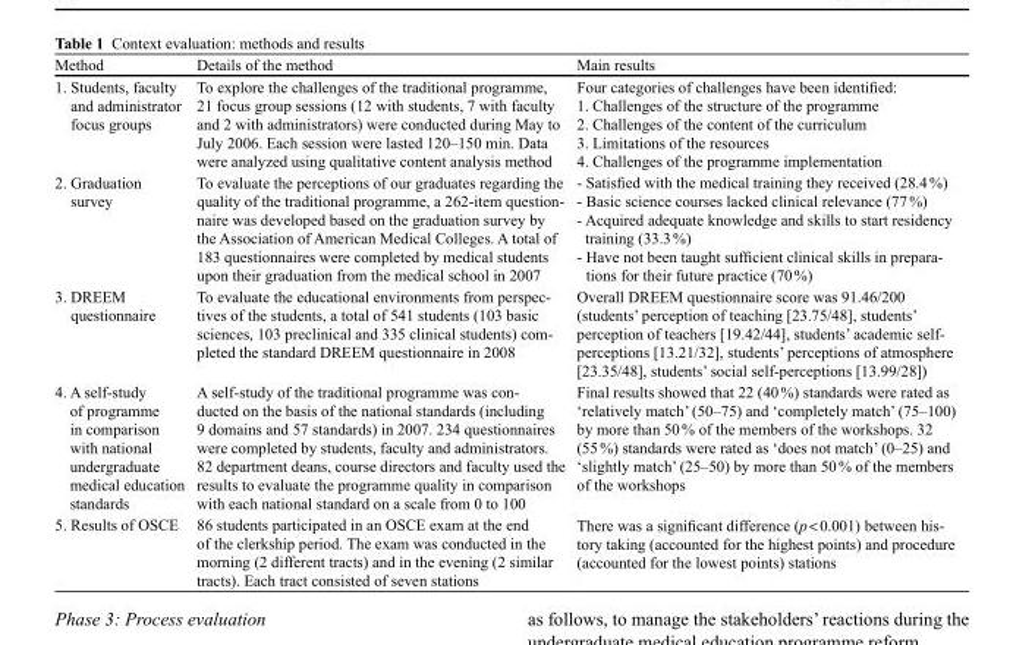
<table><thead><tr><td>Method</td><td>Details of the method</td><td>Main results</td></tr></thead><tbody><tr><td>1. Students, faculty and administrator focus groups</td><td>To explore the challenges of the traditional programme, 21 focus group sessions (12 with students, 7 with faculty and 2 with administrators) were conducted during May to July 2006. Each session were lasted 120–150 min. Data were analyzed using qualitative content analysis method</td><td>Four categories of challenges have been identified: 1. Challenges of the structure of the programme 2. Challenges of the content of the curriculum 3. Limitations of the resources 4. Challenges of the programme implementation</td></tr><tr><td>2. Graduation survey</td><td>To evaluate the perceptions of our graduates regarding the quality of the traditional programme, a 262-item question- naire was developed based on the graduation survey by the Association of American Medical Colleges. A total of 183 questionnaires were completed by medical students upon their graduation from the medical school in 2007</td><td>- Satisfied with the medical training they received (28.4 %) - Basic science courses lacked clinical relevance (77 %) - Acquired adequate knowledge and skills to start residency training (33.3 %) - Have not been taught sufficient clinical skills in prepara- tions for their future practice (70 %)</td></tr><tr><td>3. DREEM questionnaire</td><td>To evaluate the educational environments from perspec- tives of the students, a total of 541 students (103 basic sciences, 103 preclinical and 335 clinical students) com- pleted the standard DREEM questionnaire in 2008</td><td>Overall DREEM questionnaire score was 91.46/200 (students’ perception of teaching [23.75/48], students’ perception of teachers [19.42/44], students’ academic self- perceptions [13.21/32], students’ perceptions of atmosphere [23.35/48], students’ social self-perceptions [13.99/28])</td></tr><tr><td>4. A self-study of programme in comparison with national undergraduate medical education standards</td><td>A self-study of the traditional programme was con- ducted on the basis of the national standards (including 9 domains and 57 standards) in 2007. 234 questionnaires were completed by students, faculty and administrators. 82 department deans, course directors and faculty used the results to evaluate the programme quality in comparison with each national standard on a scale from 0 to 100</td><td>Final results showed that 22 (40 %) standards were rated as ‘relatively match’ (50–75) and ‘completely match’ (75–100) by more than 50 % of the members of the workshops. 32 (55 %) standards were rated as ‘does not match’ (0–25) and ‘slightly match’ (25–50) by more than 50 % of the members of the workshops</td></tr><tr><td>5. Results of OSCE</td><td>86 students participated in an OSCE exam at the end of the clerkship period. The exam was conducted in the morning (2 different tracts) and in the evening (2 similar tracts). Each tract consisted of seven stations</td><td>There was a significant difference (p &lt; 0.001) between his- tory taking (accounted for the highest points) and procedure (accounted for the lowest points) stations</td></tr></tbody></table>